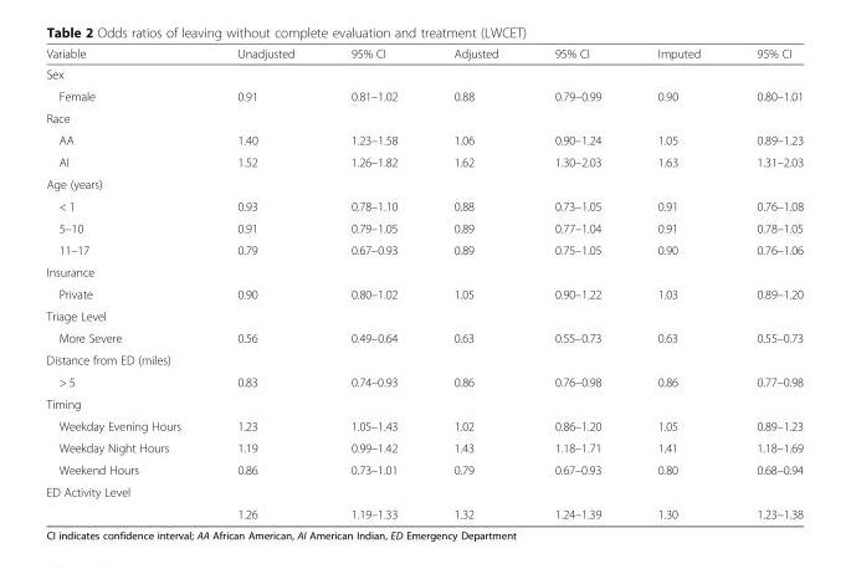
<table><thead><tr><td>Variable</td><td>Unadjusted</td><td>95% CI</td><td>Adjusted</td><td>95% CI</td><td>Imputed</td><td>95% CI</td></tr></thead><tbody><tr><td colspan="7">Sex</td></tr><tr><td>Female</td><td>0.91</td><td>0.81–1.02</td><td>0.88</td><td>0.79–0.99</td><td>0.90</td><td>0.80–1.01</td></tr><tr><td colspan="7">Race</td></tr><tr><td>AA</td><td>1.40</td><td>1.23–1.58</td><td>1.06</td><td>0.90–1.24</td><td>1.05</td><td>0.89–1.23</td></tr><tr><td>AI</td><td>1.52</td><td>1.26–1.82</td><td>1.62</td><td>1.30–2.03</td><td>1.63</td><td>1.31–2.03</td></tr><tr><td colspan="7">Age (years)</td></tr><tr><td>&lt; 1</td><td>0.93</td><td>0.78–1.10</td><td>0.88</td><td>0.73–1.05</td><td>0.91</td><td>0.76–1.08</td></tr><tr><td>5–10</td><td>0.91</td><td>0.79–1.05</td><td>0.89</td><td>0.77–1.04</td><td>0.91</td><td>0.78–1.05</td></tr><tr><td>11–17</td><td>0.79</td><td>0.67–0.93</td><td>0.89</td><td>0.75–1.05</td><td>0.90</td><td>0.76–1.06</td></tr><tr><td colspan="7">Insurance</td></tr><tr><td>Private</td><td>0.90</td><td>0.80–1.02</td><td>1.05</td><td>0.90–1.22</td><td>1.03</td><td>0.89–1.20</td></tr><tr><td colspan="7">Triage Level</td></tr><tr><td>More Severe</td><td>0.56</td><td>0.49–0.64</td><td>0.63</td><td>0.55–0.73</td><td>0.63</td><td>0.55–0.73</td></tr><tr><td colspan="7">Distance from ED (miles)</td></tr><tr><td>&gt; 5</td><td>0.83</td><td>0.74–0.93</td><td>0.86</td><td>0.76–0.98</td><td>0.86</td><td>0.77–0.98</td></tr><tr><td colspan="7">Timing</td></tr><tr><td>Weekday Evening Hours</td><td>1.23</td><td>1.05–1.43</td><td>1.02</td><td>0.86–1.20</td><td>1.05</td><td>0.89–1.23</td></tr><tr><td>Weekday Night Hours</td><td>1.19</td><td>0.99–1.42</td><td>1.43</td><td>1.18–1.71</td><td>1.41</td><td>1.18–1.69</td></tr><tr><td>Weekend Hours</td><td>0.86</td><td>0.73–1.01</td><td>0.79</td><td>0.67–0.93</td><td>0.80</td><td>0.68–0.94</td></tr><tr><td colspan="7">ED Activity Level</td></tr><tr><td></td><td>1.26</td><td>1.19–1.33</td><td>1.32</td><td>1.24–1.39</td><td>1.30</td><td>1.23–1.38</td></tr></tbody></table>